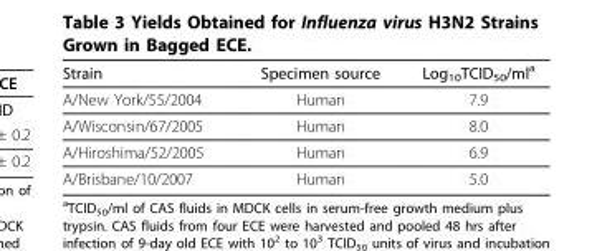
<table><thead><tr><td>Strain</td><td>Specimen source</td><td>Log<sub>10</sub>TCID<sub>50</sub>/ml<sup>a</sup></td></tr></thead><tbody><tr><td>A/New York/55/2004</td><td>Human</td><td>7.9</td></tr><tr><td>A/Wisconsin/67/2005</td><td>Human</td><td>8.0</td></tr><tr><td>A/Hiroshima/52/2005</td><td>Human</td><td>6.9</td></tr><tr><td>A/Brisbane/10/2007</td><td>Human</td><td>5.0</td></tr></tbody></table>